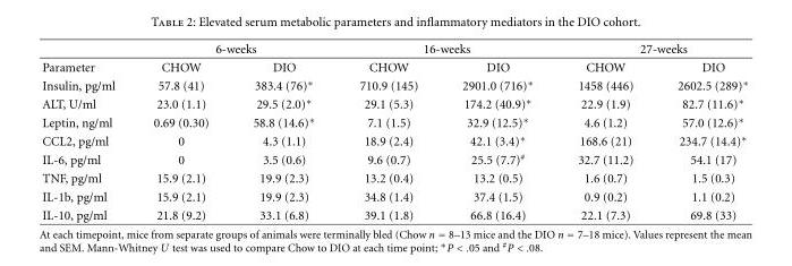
<table><thead><tr><td rowspan="2">Parameter</td><td colspan="2">6-weeks</td><td colspan="2">16-weeks</td><td colspan="2">27-weeks</td></tr><tr><td>CHOW</td><td>DIO</td><td>CHOW</td><td>DIO</td><td>CHOW</td><td>DIO</td></tr></thead><tbody><tr><td>Insulin, pg/ml</td><td>57.8 (41)</td><td>383.4 (76)∗</td><td>710.9 (145)</td><td>2901.0 (716)∗</td><td>1458 (446)</td><td>2602.5 (289)∗</td></tr><tr><td>ALT, U/ml</td><td>23.0 (1.1)</td><td>29.5 (2.0)∗</td><td>29.1 (5.3)</td><td>174.2 (40.9)∗</td><td>22.9 (1.9)</td><td>82.7 (11.6)∗</td></tr><tr><td>Leptin, ng/ml</td><td>0.69 (0.30)</td><td>58.8 (14.6)∗</td><td>7.1 (1.5)</td><td>32.9 (12.5)∗</td><td>4.6 (1.2)</td><td>57.0 (12.6)∗</td></tr><tr><td>CCL2, pg/ml</td><td>0</td><td>4.3 (1.1)</td><td>18.9 (2.4)</td><td>42.1 (3.4)∗</td><td>168.6 (21)</td><td>234.7 (14.4)∗</td></tr><tr><td>IL-6, pg/ml</td><td>0</td><td>3.5 (0.6)</td><td>9.6 (0.7)</td><td>25.5 (7.7)<sup>#</sup></td><td>32.7 (11.2)</td><td>54.1 (17)</td></tr><tr><td>TNF, pg/ml</td><td>15.9 (2.1)</td><td>19.9 (2.3)</td><td>13.2 (0.4)</td><td>13.2 (0.5)</td><td>1.6 (0.7)</td><td>1.5 (0.3)</td></tr><tr><td>IL-1b, pg/ml</td><td>15.9 (2.1)</td><td>19.9 (2.3)</td><td>34.8 (1.4)</td><td>37.4 (1.5)</td><td>0.9 (0.2)</td><td>1.1 (0.2)</td></tr><tr><td>IL-10, pg/ml</td><td>21.8 (9.2)</td><td>33.1 (6.8)</td><td>39.1 (1.8)</td><td>66.8 (16.4)</td><td>22.1 (7.3)</td><td>69.8 (33)</td></tr></tbody></table>